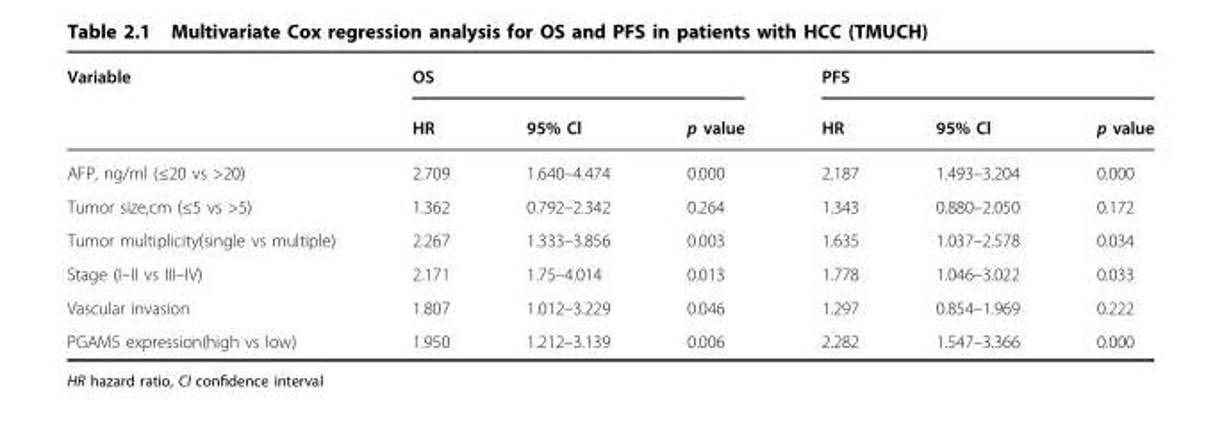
<table><thead><tr><td rowspan="2">Variable</td><td colspan="3">OS</td><td colspan="3">PFS</td></tr><tr><td>HR</td><td>95% Cl</td><td>p value</td><td>HR</td><td>95% Cl</td><td>p value</td></tr></thead><tbody><tr><td>AFP, ng/ml (≤20 vs &gt;20)</td><td>2.709</td><td>1.640–4.474</td><td>0.000</td><td>2.187</td><td>1.493–3.204</td><td>0.000</td></tr><tr><td>Tumor size,cm (≤5 vs &gt;5)</td><td>1.362</td><td>0.792–2.342</td><td>0.264</td><td>1.343</td><td>0.880–2.050</td><td>0.172</td></tr><tr><td>Tumor multiplicity(single vs multiple)</td><td>2.267</td><td>1.333–3.856</td><td>0.003</td><td>1.635</td><td>1.037–2.578</td><td>0.034</td></tr><tr><td>Stage (I–II vs III–IV)</td><td>2.171</td><td>1.75–4.014</td><td>0.013</td><td>1.778</td><td>1.046–3.022</td><td>0.033</td></tr><tr><td>Vascular invasion</td><td>1.807</td><td>1.012–3.229</td><td>0.046</td><td>1.297</td><td>0.854–1.969</td><td>0.222</td></tr><tr><td>PGAM5 expression(high vs low)</td><td>1.950</td><td>1.212–3.139</td><td>0.006</td><td>2.282</td><td>1.547–3.366</td><td>0.000</td></tr></tbody></table>